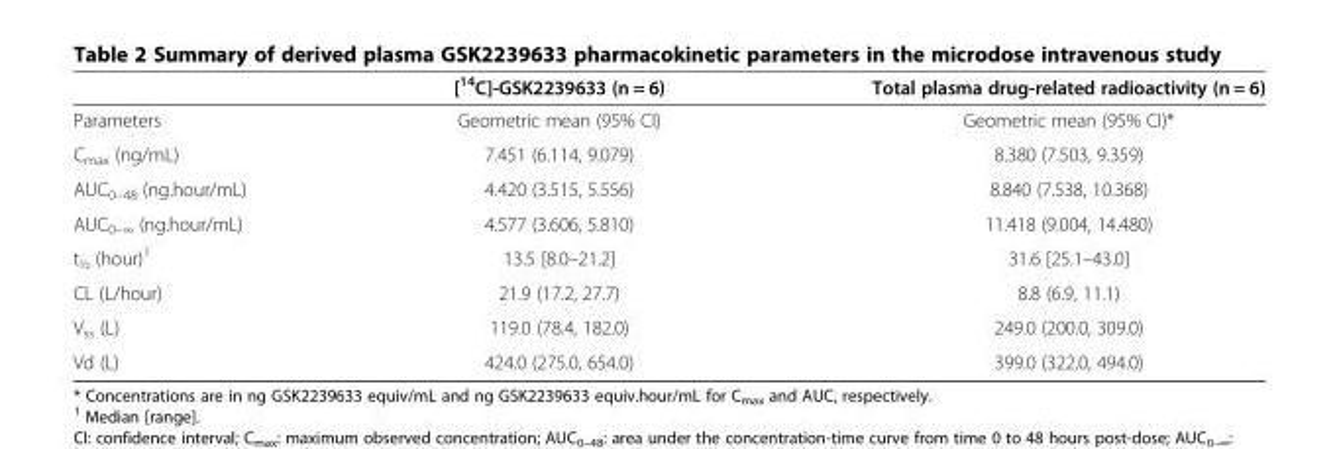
<table><thead><tr><td></td><td>[<sup>14</sup>C]-GSK2239633 (n = 6)</td><td>Total plasma drug-related radioactivity (n = 6)</td></tr></thead><tbody><tr><td>Parameters</td><td>Geometric mean (95% CI)</td><td>Geometric mean (95% CI)*</td></tr><tr><td>C<sub>max</sub> (ng/mL)</td><td>7.451 (6.114, 9.079)</td><td>8.380 (7.503, 9.359)</td></tr><tr><td>AUC<sub>0–48</sub> (ng.hour/mL)</td><td>4.420 (3.515, 5.556)</td><td>8.840 (7.538, 10.368)</td></tr><tr><td>AUC<sub>0–∞</sub> (ng.hour/mL)</td><td>4.577 (3.606, 5.810)</td><td>11.418 (9.004, 14.480)</td></tr><tr><td>t<sub>½</sub> (hour)<sup>1</sup></td><td>13.5 [8.0–21.2]</td><td>31.6 [25.1–43.0]</td></tr><tr><td>CL (L/hour)</td><td>21.9 (17.2, 27.7)</td><td>8.8 (6.9, 11.1)</td></tr><tr><td>V<sub>ss</sub> (L)</td><td>119.0 (78.4, 182.0)</td><td>249.0 (200.0, 309.0)</td></tr><tr><td>Vd (L)</td><td>424.0 (275.0, 654.0)</td><td>399.0 (322.0, 494.0)</td></tr></tbody></table>